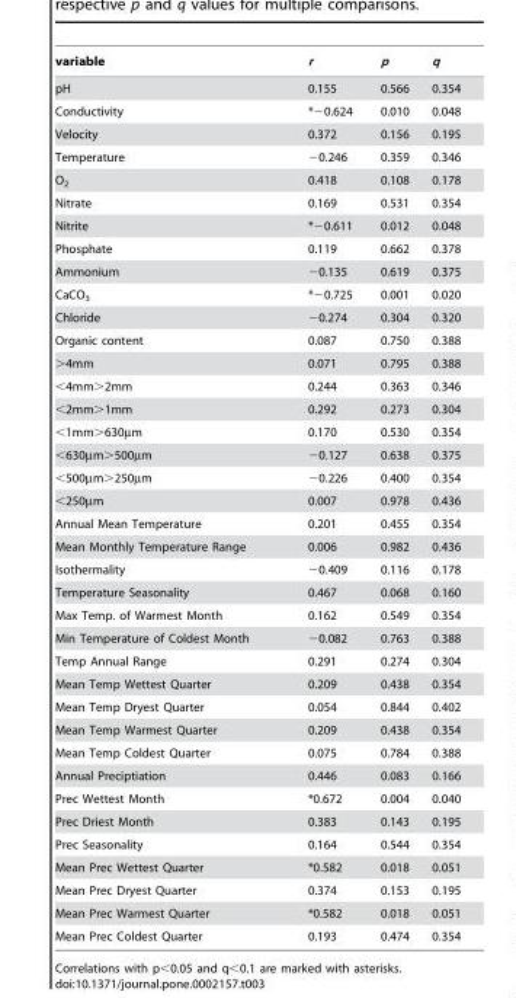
<table><thead><tr><td>variable</td><td>r</td><td>p</td><td>q</td></tr></thead><tbody><tr><td>pH</td><td>0.155</td><td>0.566</td><td>0.354</td></tr><tr><td>Conductivity</td><td>*−0.624</td><td>0.010</td><td>0.048</td></tr><tr><td>Velocity</td><td>0.372</td><td>0.156</td><td>0.195</td></tr><tr><td>Temperature</td><td>−0.246</td><td>0.359</td><td>0.346</td></tr><tr><td>O<sub>2</sub></td><td>0.418</td><td>0.108</td><td>0.178</td></tr><tr><td>Nitrate</td><td>0.169</td><td>0.531</td><td>0.354</td></tr><tr><td>Nitrite</td><td>*−0.611</td><td>0.012</td><td>0.048</td></tr><tr><td>Phosphate</td><td>0.119</td><td>0.662</td><td>0.378</td></tr><tr><td>Ammonium</td><td>−0.135</td><td>0.619</td><td>0.375</td></tr><tr><td>CaCO<sub>3</sub></td><td>*−0.725</td><td>0.001</td><td>0.020</td></tr><tr><td>Chloride</td><td>−0.274</td><td>0.304</td><td>0.320</td></tr><tr><td>Organic content</td><td>0.087</td><td>0.750</td><td>0.388</td></tr><tr><td>&gt;4mm</td><td>0.071</td><td>0.795</td><td>0.388</td></tr><tr><td>&lt;4mm&gt;2mm</td><td>0.244</td><td>0.363</td><td>0.346</td></tr><tr><td>&lt;2mm&gt;1mm</td><td>0.292</td><td>0.273</td><td>0.304</td></tr><tr><td>&lt;1mm&gt;630µm</td><td>0.170</td><td>0.530</td><td>0.354</td></tr><tr><td>&lt;630µm&gt;500µm</td><td>−0.127</td><td>0.638</td><td>0.375</td></tr><tr><td>&lt;500µm&gt;250µm</td><td>−0.226</td><td>0.400</td><td>0.354</td></tr><tr><td>&lt;250µm</td><td>0.007</td><td>0.978</td><td>0.436</td></tr><tr><td>Annual Mean Temperature</td><td>0.201</td><td>0.455</td><td>0.354</td></tr><tr><td>Mean Monthly Temperature Range</td><td>0.006</td><td>0.982</td><td>0.436</td></tr><tr><td>Isothermality</td><td>−0.409</td><td>0.116</td><td>0.178</td></tr><tr><td>Temperature Seasonality</td><td>0.467</td><td>0.068</td><td>0.160</td></tr><tr><td>Max Temp. of Warmest Month</td><td>0.162</td><td>0.549</td><td>0.354</td></tr><tr><td>Min Temperature of Coldest Month</td><td>−0.082</td><td>0.763</td><td>0.388</td></tr><tr><td>Temp Annual Range</td><td>0.291</td><td>0.274</td><td>0.304</td></tr><tr><td>Mean Temp Wettest Quarter</td><td>0.209</td><td>0.438</td><td>0.354</td></tr><tr><td>Mean Temp Dryest Quarter</td><td>0.054</td><td>0.844</td><td>0.402</td></tr><tr><td>Mean Temp Warmest Quarter</td><td>0.209</td><td>0.438</td><td>0.354</td></tr><tr><td>Mean Temp Coldest Quarter</td><td>0.075</td><td>0.784</td><td>0.388</td></tr><tr><td>Annual Preciptiation</td><td>0.446</td><td>0.083</td><td>0.166</td></tr><tr><td>Prec Wettest Month</td><td>*0.672</td><td>0.004</td><td>0.040</td></tr><tr><td>Prec Driest Month</td><td>0.383</td><td>0.143</td><td>0.195</td></tr><tr><td>Prec Seasonality</td><td>0.164</td><td>0.544</td><td>0.354</td></tr><tr><td>Mean Prec Wettest Quarter</td><td>*0.582</td><td>0.018</td><td>0.051</td></tr><tr><td>Mean Prec Dryest Quarter</td><td>0.374</td><td>0.153</td><td>0.195</td></tr><tr><td>Mean Prec Warmest Quarter</td><td>*0.582</td><td>0.018</td><td>0.051</td></tr><tr><td>Mean Prec Coldest Quarter</td><td>0.193</td><td>0.474</td><td>0.354</td></tr></tbody></table>